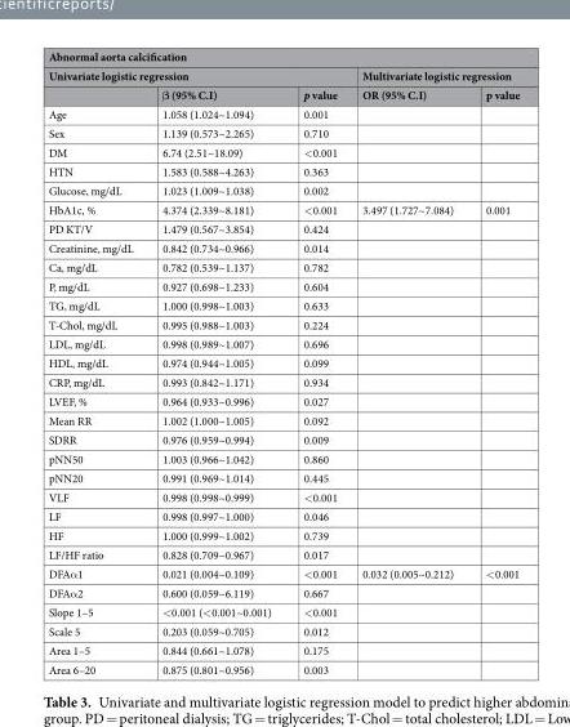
<table><thead><tr><td colspan="5">Abnormal aorta calcification</td></tr><tr><td colspan="3">Univariate logistic regression</td><td colspan="2">Multivariate logistic regression</td></tr><tr><td></td><td>β (95% C.I)</td><td>p value</td><td>OR (95% C.I)</td><td>p value</td></tr></thead><tbody><tr><td>Age</td><td>1.058 (1.024~1.094)</td><td>0.001</td><td></td><td></td></tr><tr><td>Sex</td><td>1.139 (0.573~2.265)</td><td>0.710</td><td></td><td></td></tr><tr><td>DM</td><td>6.74 (2.51~18.09)</td><td>&lt;0.001</td><td></td><td></td></tr><tr><td>HTN</td><td>1.583 (0.588~4.263)</td><td>0.363</td><td></td><td></td></tr><tr><td>Glucose, mg/dL</td><td>1.023 (1.009~1.038)</td><td>0.002</td><td></td><td></td></tr><tr><td>HbA1c, %</td><td>4.374 (2.339~8.181)</td><td>&lt;0.001</td><td>3.497 (1.727~7.084)</td><td>0.001</td></tr><tr><td>PD KT/V</td><td>1.479 (0.567~3.854)</td><td>0.424</td><td></td><td></td></tr><tr><td>Creatinine, mg/dL</td><td>0.842 (0.734~0.966)</td><td>0.014</td><td></td><td></td></tr><tr><td>Ca, mg/dL</td><td>0.782 (0.539~1.137)</td><td>0.782</td><td></td><td></td></tr><tr><td>P, mg/dL</td><td>0.927 (0.698~1.233)</td><td>0.604</td><td></td><td></td></tr><tr><td>TG, mg/dL</td><td>1.000 (0.998~1.003)</td><td>0.633</td><td></td><td></td></tr><tr><td>T-Chol, mg/dL</td><td>0.995 (0.988~1.003)</td><td>0.224</td><td></td><td></td></tr><tr><td>LDL, mg/dL</td><td>0.998 (0.989~1.007)</td><td>0.696</td><td></td><td></td></tr><tr><td>HDL, mg/dL</td><td>0.974 (0.944~1.005)</td><td>0.099</td><td></td><td></td></tr><tr><td>CRP, mg/dL</td><td>0.993 (0.842~1.171)</td><td>0.934</td><td></td><td></td></tr><tr><td>LVEF, %</td><td>0.964 (0.933~0.996)</td><td>0.027</td><td></td><td></td></tr><tr><td>Mean RR</td><td>1.002 (1.000~1.005)</td><td>0.092</td><td></td><td></td></tr><tr><td>SDRR</td><td>0.976 (0.959~0.994)</td><td>0.009</td><td></td><td></td></tr><tr><td>pNN50</td><td>1.003 (0.966~1.042)</td><td>0.860</td><td></td><td></td></tr><tr><td>pNN20</td><td>0.991 (0.969~1.014)</td><td>0.445</td><td></td><td></td></tr><tr><td>VLF</td><td>0.998 (0.998~0.999)</td><td>&lt;0.001</td><td></td><td></td></tr><tr><td>LF</td><td>0.998 (0.997~1.000)</td><td>0.046</td><td></td><td></td></tr><tr><td>HF</td><td>1.000 (0.999~1.002)</td><td>0.739</td><td></td><td></td></tr><tr><td>LF/HF ratio</td><td>0.828 (0.709~0.967)</td><td>0.017</td><td></td><td></td></tr><tr><td>DFAα1</td><td>0.021 (0.004~0.109)</td><td>&lt;0.001</td><td>0.032 (0.005~0.212)</td><td>&lt;0.001</td></tr><tr><td>DFAα2</td><td>0.600 (0.059~6.119)</td><td>0.667</td><td></td><td></td></tr><tr><td>Slope 1–5</td><td>&lt;0.001 (&lt;0.001~0.001)</td><td>&lt;0.001</td><td></td><td></td></tr><tr><td>Scale 5</td><td>0.203 (0.059~0.705)</td><td>0.012</td><td></td><td></td></tr><tr><td>Area 1–5</td><td>0.844 (0.661~1.078)</td><td>0.175</td><td></td><td></td></tr><tr><td>Area 6–20</td><td>0.875 (0.801~0.956)</td><td>0.003</td><td></td><td></td></tr></tbody></table>